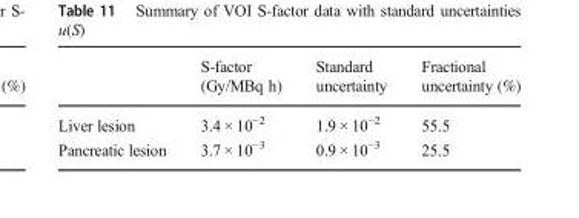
<table><thead><tr><td></td><td>S-factor (Gy/MBq h)</td><td>Standard uncertainty</td><td>Fractional uncertainty (%)</td></tr></thead><tbody><tr><td>Liver lesion</td><td>3.4 × 10<sup>−2</sup></td><td>1.9 × 10<sup>−2</sup></td><td>55.5</td></tr><tr><td>Pancreatic lesion</td><td>3.7 × 10<sup>−3</sup></td><td>0.9 × 10<sup>−3</sup></td><td>25.5</td></tr></tbody></table>